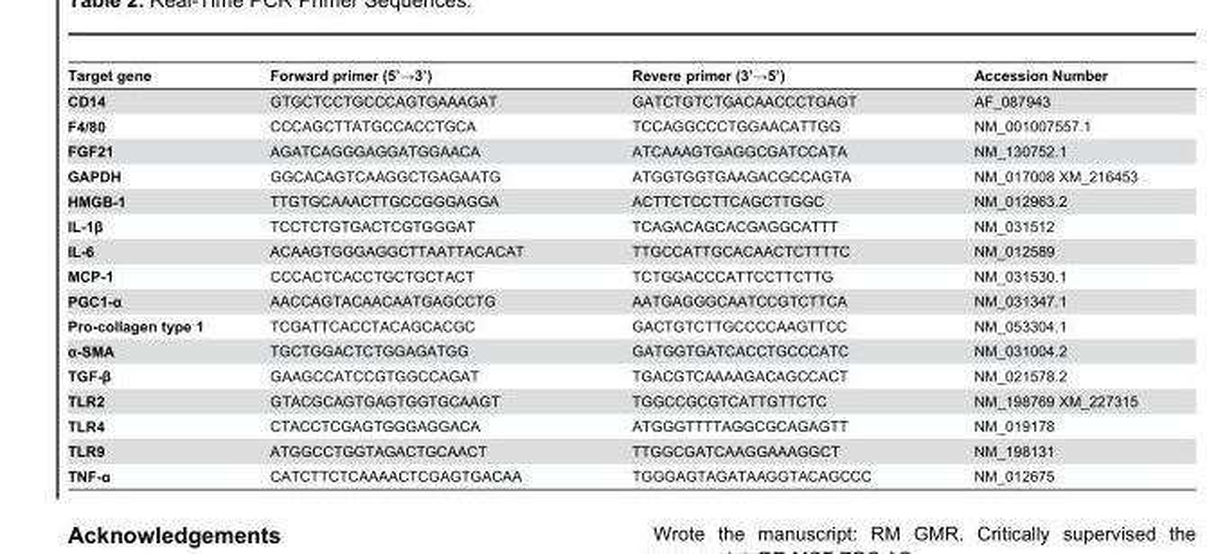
<table><thead><tr><td>Target gene</td><td>Forward primer (5’→3’)</td><td>Revere primer (3’→5’)</td><td>Accession Number</td></tr></thead><tbody><tr><td>CD14</td><td>GTGCTCCTGCCCAGTGAAAGAT</td><td>GATCTGTCTGACAACCCTGAGT</td><td>AF_087943</td></tr><tr><td>F4/80</td><td>CCCAGCTTATGCCACCTGCA</td><td>TCCAGGCCCTGGAACATTGG</td><td>NM_001007557.1</td></tr><tr><td>FGF21</td><td>AGATCAGGGAGGATGGAACA</td><td>ATCAAAGTGAGGCGATCCATA</td><td>NM_130752.1</td></tr><tr><td>GAPDH</td><td>GGCACAGTCAAGGCTGAGAATG</td><td>ATGGTGGTGAAGACGCCAGTA</td><td>NM_017008 XM_216453</td></tr><tr><td>HMGB-1</td><td>TTGTGCAAACTTGCCGGGAGGA</td><td>ACTTCTCCTTCAGCTTGGC</td><td>NM_012963.2</td></tr><tr><td>IL-1β</td><td>TCCTCTGTGACTCGTGGGAT</td><td>TCAGACAGCACGAGGCATTT</td><td>NM_031512</td></tr><tr><td>IL-6</td><td>ACAAGTGGGAGGCTTAATTACACAT</td><td>TTGCCATTGCACAACTCTTTTC</td><td>NM_012589</td></tr><tr><td>MCP-1</td><td>CCCACTCACCTGCTGCTACT</td><td>TCTGGACCCATTCCTTCTTG</td><td>NM_031530.1</td></tr><tr><td>PGC1-α</td><td>AACCAGTACAACAATGAGCCTG</td><td>AATGAGGGCAATCCGTCTTCA</td><td>NM_031347.1</td></tr><tr><td>Pro-collagen type 1</td><td>TCGATTCACCTACAGCACGC</td><td>GACTGTCTTGCCCCAAGTTCC</td><td>NM_053304.1</td></tr><tr><td>α-SMA</td><td>TGCTGGACTCTGGAGATGG</td><td>GATGGTGATCACCTGCCCATC</td><td>NM_031004.2</td></tr><tr><td>TGF-β</td><td>GAAGCCATCCGTGGCCAGAT</td><td>TGACGTCAAAAGACAGCCACT</td><td>NM_021578.2</td></tr><tr><td>TLR2</td><td>GTACGCAGTGAGTGGTGCAAGT</td><td>TGGCCGCGTCATTGTTCTC</td><td>NM_198769 XM_227315</td></tr><tr><td>TLR4</td><td>CTACCTCGAGTGGGAGGACA</td><td>ATGGGTTTTAGGCGCAGAGTT</td><td>NM_019178</td></tr><tr><td>TLR9</td><td>ATGGCCTGGTAGACTGCAACT</td><td>TTGGCGATCAAGGAAAGGCT</td><td>NM_198131</td></tr><tr><td>TNF-α</td><td>CATCTTCTCAAAACTCGAGTGACAA</td><td>TGGGAGTAGATAAGGTACAGCCC</td><td>NM_012675</td></tr></tbody></table>